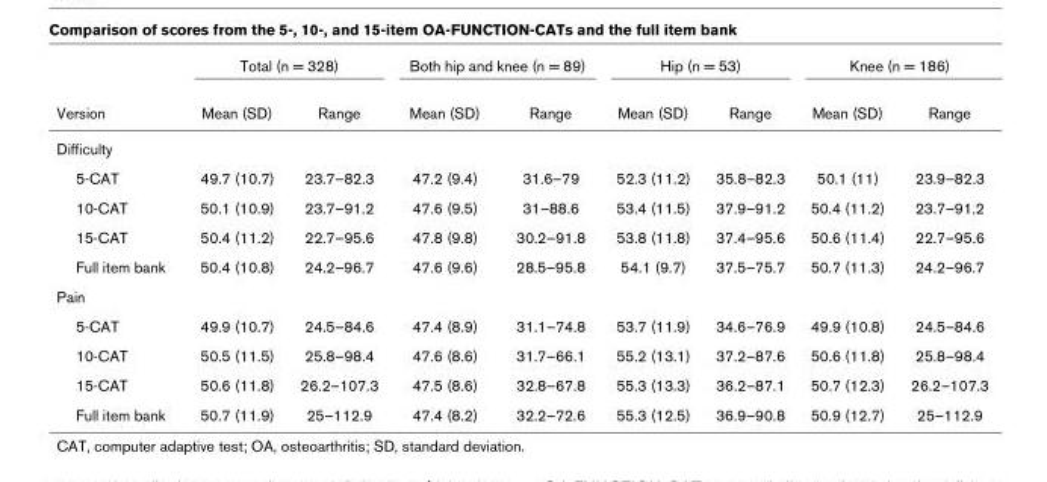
<table><thead><tr><td rowspan="2">Version</td><td colspan="2">Total (n = 328)</td><td colspan="2">Both hip and knee (n = 89)</td><td colspan="2">Hip (n = 53)</td><td colspan="2">Knee (n = 186)</td></tr><tr><td>Mean (SD)</td><td>Range</td><td>Mean (SD)</td><td>Range</td><td>Mean (SD)</td><td>Range</td><td>Mean (SD)</td><td>Range</td></tr></thead><tbody><tr><td colspan="9">Difficulty</td></tr><tr><td>5-CAT</td><td>49.7 (10.7)</td><td>23.7–82.3</td><td>47.2 (9.4)</td><td>31.6–79</td><td>52.3 (11.2)</td><td>35.8–82.3</td><td>50.1 (11)</td><td>23.9–82.3</td></tr><tr><td>10-CAT</td><td>50.1 (10.9)</td><td>23.7–91.2</td><td>47.6 (9.5)</td><td>31–88.6</td><td>53.4 (11.5)</td><td>37.9–91.2</td><td>50.4 (11.2)</td><td>23.7–91.2</td></tr><tr><td>15-CAT</td><td>50.4 (11.2)</td><td>22.7–95.6</td><td>47.8 (9.8)</td><td>30.2–91.8</td><td>53.8 (11.8)</td><td>37.4–95.6</td><td>50.6 (11.4)</td><td>22.7–95.6</td></tr><tr><td>Full item bank</td><td>50.4 (10.8)</td><td>24.2–96.7</td><td>47.6 (9.6)</td><td>28.5–95.8</td><td>54.1 (9.7)</td><td>37.5–75.7</td><td>50.7 (11.3)</td><td>24.2–96.7</td></tr><tr><td colspan="9">Pain</td></tr><tr><td>5-CAT</td><td>49.9 (10.7)</td><td>24.5–84.6</td><td>47.4 (8.9)</td><td>31.1–74.8</td><td>53.7 (11.9)</td><td>34.6–76.9</td><td>49.9 (10.8)</td><td>24.5–84.6</td></tr><tr><td>10-CAT</td><td>50.5 (11.5)</td><td>25.8–98.4</td><td>47.6 (8.6)</td><td>31.7–66.1</td><td>55.2 (13.1)</td><td>37.2–87.6</td><td>50.6 (11.8)</td><td>25.8–98.4</td></tr><tr><td>15-CAT</td><td>50.6 (11.8)</td><td>26.2–107.3</td><td>47.5 (8.6)</td><td>32.8–67.8</td><td>55.3 (13.3)</td><td>36.2–87.1</td><td>50.7 (12.3)</td><td>26.2–107.3</td></tr><tr><td>Full item bank</td><td>50.7 (11.9)</td><td>25–112.9</td><td>47.4 (8.2)</td><td>32.2–72.6</td><td>55.3 (12.5)</td><td>36.9–90.8</td><td>50.9 (12.7)</td><td>25–112.9</td></tr></tbody></table>